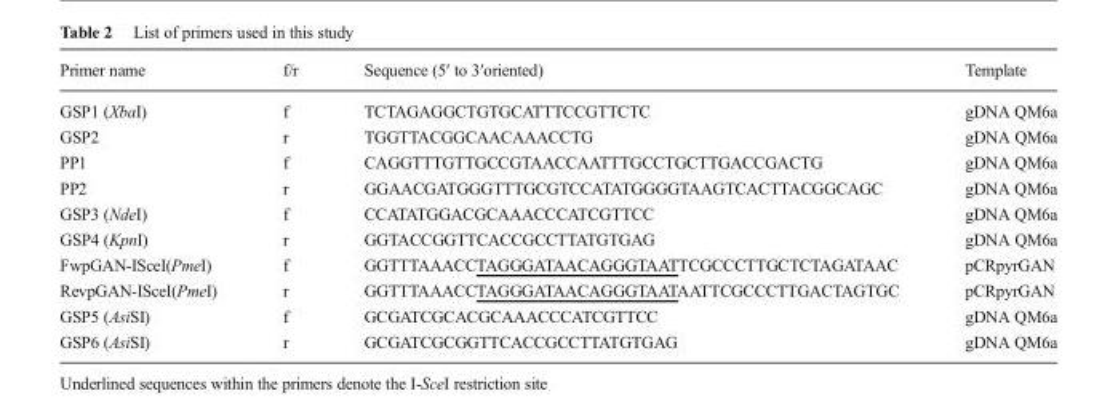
<table><thead><tr><td>Primer name</td><td>f/r</td><td>Sequence (5′ to 3′oriented)</td><td>Template</td></tr></thead><tbody><tr><td>GSP1 (XbaI)</td><td>f</td><td>TCTAGAGGCTGTGCATTTCCGTTCTC</td><td>gDNA QM6a</td></tr><tr><td>GSP2</td><td>r</td><td>TGGTTACGGCAACAAACCTG</td><td>gDNA QM6a</td></tr><tr><td>PP1</td><td>f</td><td>CAGGTTTGTTGCCGTAACCAATTTGCCTGCTTGACCGACTG</td><td>gDNA QM6a</td></tr><tr><td>PP2</td><td>r</td><td>GGAACGATGGGTTTGCGTCCATATGGGGTAAGTCACTTACGGCAGC</td><td>gDNA QM6a</td></tr><tr><td>GSP3 (NdeI)</td><td>f</td><td>CCATATGGACGCAAACCCATCGTTCC</td><td>gDNA QM6a</td></tr><tr><td>GSP4 (KpnI)</td><td>r</td><td>GGTACCGGTTCACCGCCTTATGTGAG</td><td>gDNA QM6a</td></tr><tr><td>FwpGAN-ISceI(PmeI)</td><td>f</td><td>GGTTTAAACCTAGGGATAACAGGGTAATTCGCCCTTGCTCTAGATAAC</td><td>pCRpyrGAN</td></tr><tr><td>RevpGAN-ISceI(PmeI)</td><td>r</td><td>GGTTTAAACCTAGGGATAACAGGGTAATAATTCGCCCTTGACTAGTGC</td><td>pCRpyrGAN</td></tr><tr><td>GSP5 (AsiSI)</td><td>f</td><td>GCGATCGCACGCAAACCCATCGTTCC</td><td>gDNA QM6a</td></tr><tr><td>GSP6 (AsiSI)</td><td>r</td><td>GCGATCGCGGTTCACCGCCTTATGTGAG</td><td>gDNA QM6a</td></tr></tbody></table>